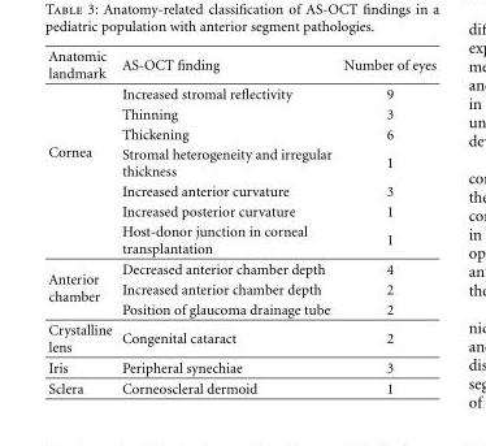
<table><thead><tr><td>Anatomic landmark</td><td>AS-OCT finding</td><td>Number of eyes</td></tr></thead><tbody><tr><td rowspan="7">Cornea</td><td>Increased stromal reflectivity</td><td>9</td></tr><tr><td>Thinning</td><td>3</td></tr><tr><td>Thickening</td><td>6</td></tr><tr><td>Stromal heterogeneity and irregular thickness</td><td>1</td></tr><tr><td>Increased anterior curvature</td><td>3</td></tr><tr><td>Increased posterior curvature</td><td>1</td></tr><tr><td>Host-donor junction in corneal transplantation</td><td>1</td></tr><tr><td rowspan="3">Anterior chamber</td><td>Decreased anterior chamber depth</td><td>4</td></tr><tr><td>Increased anterior chamber depth</td><td>2</td></tr><tr><td>Position of glaucoma drainage tube</td><td>2</td></tr><tr><td>Crystalline lens</td><td>Congenital cataract</td><td>2</td></tr><tr><td>Iris</td><td>Peripheral synechiae</td><td>3</td></tr><tr><td>Sclera</td><td>Corneoscleral dermoid</td><td>1</td></tr></tbody></table>